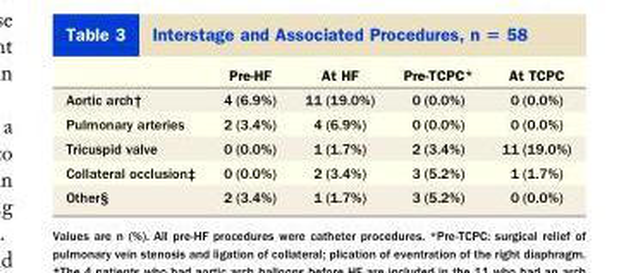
<table><thead><tr><td></td><td>Pre-HF</td><td>At HF</td><td>Pre-TCPC*</td><td>At TCPC</td></tr></thead><tbody><tr><td>Aortic arch†</td><td>4 (6.9%)</td><td>11 (19.0%)</td><td>0 (0.0%)</td><td>0 (0.0%)</td></tr><tr><td>Pulmonary arteries</td><td>2 (3.4%)</td><td>4 (6.9%)</td><td>0 (0.0%)</td><td>0 (0.0%)</td></tr><tr><td>Tricuspid valve</td><td>0 (0.0%)</td><td>1 (1.7%)</td><td>2 (3.4%)</td><td>11 (19.0%)</td></tr><tr><td>Collateral occlusion‡</td><td>0 (0.0%)</td><td>2 (3.4%)</td><td>3 (5.2%)</td><td>1 (1.7%)</td></tr><tr><td>Other§</td><td>2 (3.4%)</td><td>1 (1.7%)</td><td>3 (5.2%)</td><td>0 (0.0%)</td></tr></tbody></table>